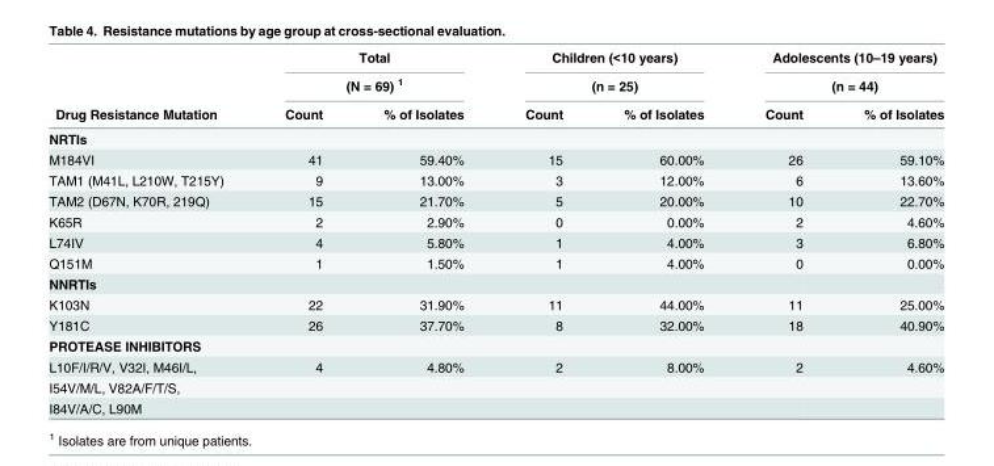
<table><thead><tr><td rowspan="3">Drug Resistance Mutation</td><td rowspan="2" colspan="2">Total (N = 69) <sup>1</sup></td><td rowspan="2" colspan="2">Children (&lt;10 years) (n = 25)</td><td rowspan="2" colspan="2">Adolescents (10–19 years) (n = 44)</td></tr><tr></tr><tr><td>Count</td><td>% of Isolates</td><td>Count</td><td>% of Isolates</td><td>Count</td><td>% of Isolates</td></tr></thead><tbody><tr><td colspan="7">NRTIs</td></tr><tr><td>M184VI</td><td>41</td><td>59.40%</td><td>15</td><td>60.00%</td><td>26</td><td>59.10%</td></tr><tr><td>TAM1 (M41L, L210W, T215Y)</td><td>9</td><td>13.00%</td><td>3</td><td>12.00%</td><td>6</td><td>13.60%</td></tr><tr><td>TAM2 (D67N, K70R, 219Q)</td><td>15</td><td>21.70%</td><td>5</td><td>20.00%</td><td>10</td><td>22.70%</td></tr><tr><td>K65R</td><td>2</td><td>2.90%</td><td>0</td><td>0.00%</td><td>2</td><td>4.60%</td></tr><tr><td>L74IV</td><td>4</td><td>5.80%</td><td>1</td><td>4.00%</td><td>3</td><td>6.80%</td></tr><tr><td>Q151M</td><td>1</td><td>1.50%</td><td>1</td><td>4.00%</td><td>0</td><td>0.00%</td></tr><tr><td colspan="7">NNRTIs</td></tr><tr><td>K103N</td><td>22</td><td>31.90%</td><td>11</td><td>44.00%</td><td>11</td><td>25.00%</td></tr><tr><td>Y181C</td><td>26</td><td>37.70%</td><td>8</td><td>32.00%</td><td>18</td><td>40.90%</td></tr><tr><td colspan="7">PROTEASE INHIBITORS</td></tr><tr><td>L10F/I/R/V, V32I, M46I/L,</td><td>4</td><td>4.80%</td><td>2</td><td>8.00%</td><td>2</td><td>4.60%</td></tr><tr><td colspan="7">I54V/M/L, V82A/F/T/S,</td></tr><tr><td>I84V/A/C, L90M</td><td></td><td></td><td></td><td></td><td></td><td></td></tr></tbody></table>